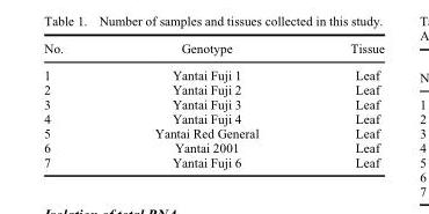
<table><thead><tr><td>No.</td><td>Genotype</td><td>Tissue</td></tr></thead><tbody><tr><td>1</td><td>Yantai Fuji 1</td><td>Leaf</td></tr><tr><td>2</td><td>Yantai Fuji 2</td><td>Leaf</td></tr><tr><td>3</td><td>Yantai Fuji 3</td><td>Leaf</td></tr><tr><td>4</td><td>Yantai Fuji 4</td><td>Leaf</td></tr><tr><td>5</td><td>Yantai Red General</td><td>Leaf</td></tr><tr><td>6</td><td>Yantai 2001</td><td>Leaf</td></tr><tr><td>7</td><td>Yantai Fuji 6</td><td>Leaf</td></tr></tbody></table>